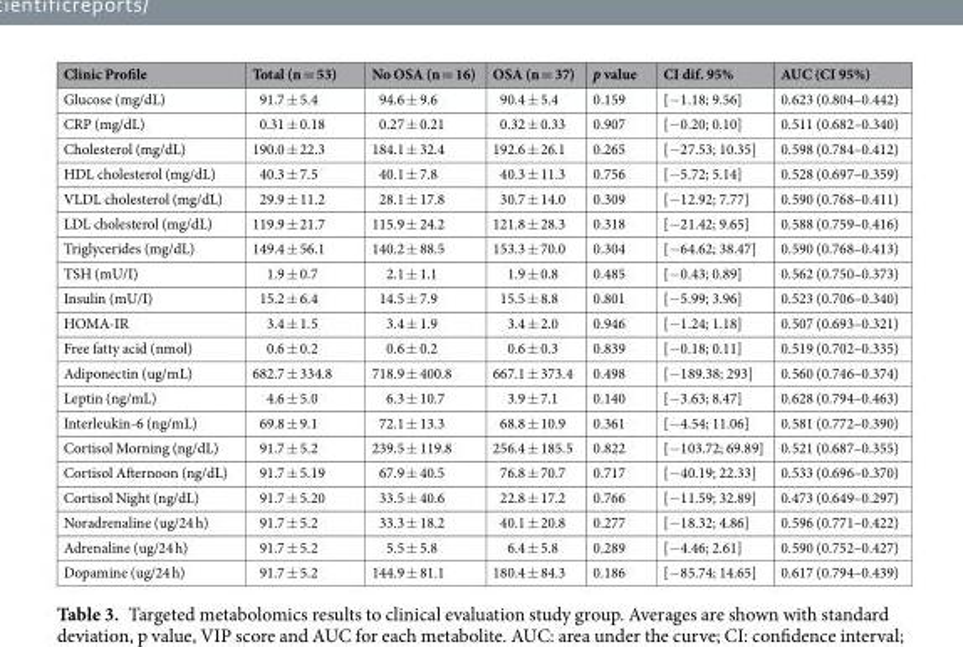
<table><thead><tr><td>Clinic Profile</td><td>Total (n = 53)</td><td>No OSA (n = 16)</td><td>OSA (n = 37)</td><td>p value</td><td>CI dif. 95%</td><td>AUC (CI 95%)</td></tr></thead><tbody><tr><td>Glucose (mg/dL)</td><td>91.7 ± 5.4</td><td>94.6 ± 9.6</td><td>90.4 ± 5.4</td><td>0.159</td><td>[−1.18; 9.56]</td><td>0.623 (0.804–0.442)</td></tr><tr><td>CRP (mg/dL)</td><td>0.31 ± 0.18</td><td>0.27 ± 0.21</td><td>0.32 ± 0.33</td><td>0.907</td><td>[−0.20; 0.10]</td><td>0.511 (0.682–0.340)</td></tr><tr><td>Cholesterol (mg/dL)</td><td>190.0 ± 22.3</td><td>184.1 ± 32.4</td><td>192.6 ± 26.1</td><td>0.265</td><td>[−27.53; 10.35]</td><td>0.598 (0.784–0.412)</td></tr><tr><td>HDL cholesterol (mg/dL)</td><td>40.3 ± 7.5</td><td>40.1 ± 7.8</td><td>40.3 ± 11.3</td><td>0.756</td><td>[−5.72; 5.14]</td><td>0.528 (0.697–0.359)</td></tr><tr><td>VLDL cholesterol (mg/dL)</td><td>29.9 ± 11.2</td><td>28.1 ± 17.8</td><td>30.7 ± 14.0</td><td>0.309</td><td>[−12.92; 7.77]</td><td>0.590 (0.768–0.411)</td></tr><tr><td>LDL cholesterol (mg/dL)</td><td>119.9 ± 21.7</td><td>115.9 ± 24.2</td><td>121.8 ± 28.3</td><td>0.318</td><td>[−21.42; 9.65]</td><td>0.588 (0.759–0.416)</td></tr><tr><td>Triglycerides (mg/dL)</td><td>149.4 ± 56.1</td><td>140.2 ± 88.5</td><td>153.3 ± 70.0</td><td>0.304</td><td>[−64.62; 38.47]</td><td>0.590 (0.768–0.413)</td></tr><tr><td>TSH (mU/I)</td><td>1.9 ± 0.7</td><td>2.1 ± 1.1</td><td>1.9 ± 0.8</td><td>0.485</td><td>[−0.43; 0.89]</td><td>0.562 (0.750–0.373)</td></tr><tr><td>Insulin (mU/I)</td><td>15.2 ± 6.4</td><td>14.5 ± 7.9</td><td>15.5 ± 8.8</td><td>0.801</td><td>[−5.99; 3.96]</td><td>0.523 (0.706–0.340)</td></tr><tr><td>HOMA-IR</td><td>3.4 ± 1.5</td><td>3.4 ± 1.9</td><td>3.4 ± 2.0</td><td>0.946</td><td>[−1.24; 1.18]</td><td>0.507 (0.693–0.321)</td></tr><tr><td>Free fatty acid (nmol)</td><td>0.6 ± 0.2</td><td>0.6 ± 0.2</td><td>0.6 ± 0.3</td><td>0.839</td><td>[−0.18; 0.11]</td><td>0.519 (0.702–0.335)</td></tr><tr><td>Adiponectin (ug/mL)</td><td>682.7 ± 334.8</td><td>718.9 ± 400.8</td><td>667.1 ± 373.4</td><td>0.498</td><td>[−189.38; 293]</td><td>0.560 (0.746–0.374)</td></tr><tr><td>Leptin (ng/mL)</td><td>4.6 ± 5.0</td><td>6.3 ± 10.7</td><td>3.9 ± 7.1</td><td>0.140</td><td>[−3.63; 8.47]</td><td>0.628 (0.794–0.463)</td></tr><tr><td>Interleukin-6 (ng/mL)</td><td>69.8 ± 9.1</td><td>72.1 ± 13.3</td><td>68.8 ± 10.9</td><td>0.361</td><td>[−4.54; 11.06]</td><td>0.581 (0.772–0.390)</td></tr><tr><td>Cortisol Morning (ng/dL)</td><td>91.7 ± 5.2</td><td>239.5 ± 119.8</td><td>256.4 ± 185.5</td><td>0.822</td><td>[−103.72; 69.89]</td><td>0.521 (0.687–0.355)</td></tr><tr><td>Cortisol Afternoon (ng/dL)</td><td>91.7 ± 5.19</td><td>67.9 ± 40.5</td><td>76.8 ± 70.7</td><td>0.717</td><td>[−40.19; 22.33]</td><td>0.533 (0.696–0.370)</td></tr><tr><td>Cortisol Night (ng/dL)</td><td>91.7 ± 5.20</td><td>33.5 ± 40.6</td><td>22.8 ± 17.2</td><td>0.766</td><td>[−11.59; 32.89]</td><td>0.473 (0.649–0.297)</td></tr><tr><td>Noradrenaline (ug/24 h)</td><td>91.7 ± 5.2</td><td>33.3 ± 18.2</td><td>40.1 ± 20.8</td><td>0.277</td><td>[−18.32; 4.86]</td><td>0.596 (0.771–0.422)</td></tr><tr><td>Adrenaline (ug/24 h)</td><td>91.7 ± 5.2</td><td>5.5 ± 5.8</td><td>6.4 ± 5.8</td><td>0.289</td><td>[−4.46; 2.61]</td><td>0.590 (0.752–0.427)</td></tr><tr><td>Dopamine (ug/24 h)</td><td>91.7 ± 5.2</td><td>144.9 ± 81.1</td><td>180.4 ± 84.3</td><td>0.186</td><td>[−85.74; 14.65]</td><td>0.617 (0.794–0.439)</td></tr></tbody></table>